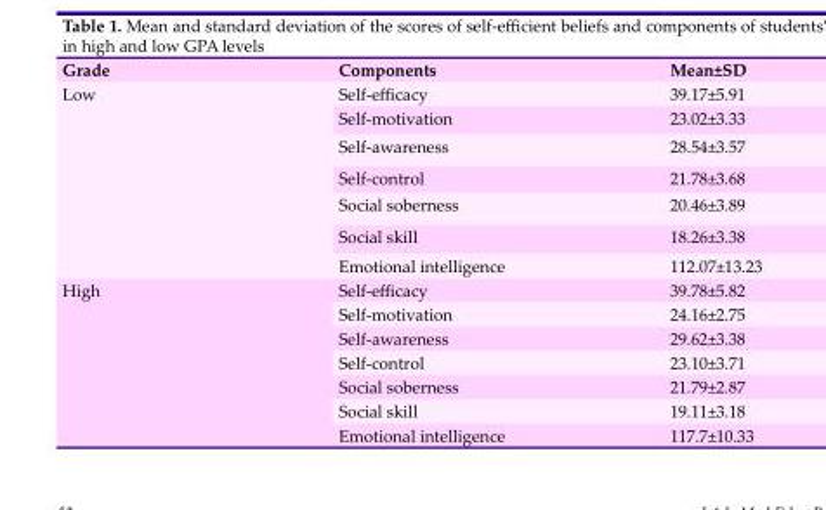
<table><thead><tr><td>Grade</td><td>Components</td><td>Mean±SD</td></tr></thead><tbody><tr><td rowspan="7">Low</td><td>Self-efficacy</td><td>39.17±5.91</td></tr><tr><td>Self-motivation</td><td>23.02±3.33</td></tr><tr><td>Self-awareness</td><td>28.54±3.57</td></tr><tr><td>Self-control</td><td>21.78±3.68</td></tr><tr><td>Social soberness</td><td>20.46±3.89</td></tr><tr><td>Social skill</td><td>18.26±3.38</td></tr><tr><td>Emotional intelligence</td><td>112.07±13.23</td></tr><tr><td rowspan="7">High</td><td>Self-efficacy</td><td>39.78±5.82</td></tr><tr><td>Self-motivation</td><td>24.16±2.75</td></tr><tr><td>Self-awareness</td><td>29.62±3.38</td></tr><tr><td>Self-control</td><td>23.10±3.71</td></tr><tr><td>Social soberness</td><td>21.79±2.87</td></tr><tr><td>Social skill</td><td>19.11±3.18</td></tr><tr><td>Emotional intelligence</td><td>117.7±10.33</td></tr></tbody></table>